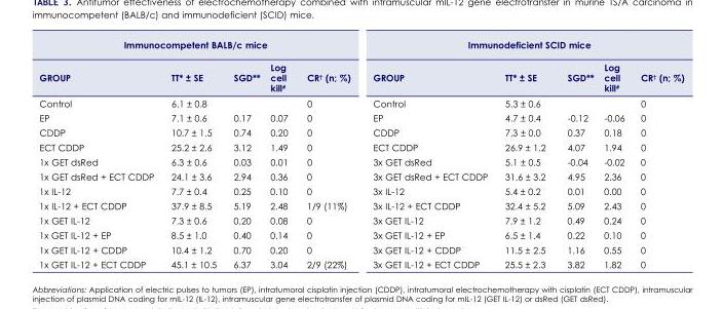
<table><thead><tr><td colspan="5">Immunocompetent BALB/c mice</td><td colspan="5">Immunodeficient SCID mice</td></tr><tr><td>Group</td><td>TT* ± SE</td><td>SGD**</td><td>Log cell kill<sup>#</sup></td><td>Cr<sup>†</sup> (n; %)</td><td>Group</td><td>TT* ± SE</td><td>SGD**</td><td>Log cell kill#</td><td>Cr† (n; %)</td></tr></thead><tbody><tr><td>Control</td><td>6.1 ± 0.8</td><td></td><td></td><td>0</td><td>Control</td><td>5.3 ± 0.6</td><td></td><td></td><td>0</td></tr><tr><td>EP</td><td>7.1 ± 0.6</td><td>0.17</td><td>0.07</td><td>0</td><td>EP</td><td>4.7 ± 0.4</td><td>-0.12</td><td>-0.06</td><td>0</td></tr><tr><td>CDDP</td><td>10.7 ± 1.5</td><td>0.74</td><td>0.20</td><td>0</td><td>CDDP</td><td>7.3 ± 0.0</td><td>0.37</td><td>0.18</td><td>0</td></tr><tr><td>ECT CDDP</td><td>25.2 ± 2.6</td><td>3.12</td><td>1.49</td><td>0</td><td>ECT CDDP</td><td>26.9 ± 1.2</td><td>4.07</td><td>1.94</td><td>0</td></tr><tr><td>1x GET dsRed</td><td>6.3 ± 0.6</td><td>0.03</td><td>0.01</td><td>0</td><td>3x GET dsRed</td><td>5.1 ± 0.5</td><td>-0.04</td><td>-0.02</td><td>0</td></tr><tr><td>1x GET dsRed + ECT CDDP</td><td>24.1 ± 3.6</td><td>2.94</td><td>0.36</td><td>0</td><td>3x GET dsRed + ECT CDDP</td><td>31.6 ± 3.2</td><td>4.95</td><td>2.36</td><td>0</td></tr><tr><td>1x IL-12</td><td>7.7 ± 0.4</td><td>0.25</td><td>0.10</td><td>0</td><td>3x IL-12</td><td>5.4 ± 0.2</td><td>0.01</td><td>0.00</td><td>0</td></tr><tr><td>1x IL-12 + ECT CDDP</td><td>37.9 ± 8.5</td><td>5.19</td><td>2.48</td><td>1/9 (11%)</td><td>3x IL-12 + ECT CDDP</td><td>32.4 ± 5.2</td><td>5.09</td><td>2.43</td><td>0</td></tr><tr><td>1x GET IL-12</td><td>7.3 ± 0.6</td><td>0.20</td><td>0.08</td><td>0</td><td>3x GET IL-12</td><td>7.9 ± 1.2</td><td>0.49</td><td>0.24</td><td>0</td></tr><tr><td>1x GET IL-12 + EP</td><td>8.5 ± 1.0</td><td>0.40</td><td>0.14</td><td>0</td><td>3x GET IL-12 + EP</td><td>6.5 ± 1.4</td><td>0.22</td><td>0.10</td><td>0</td></tr><tr><td>1x GET IL-12 + CDDP</td><td>10.4 ± 1.2</td><td>0.70</td><td>0.20</td><td>0</td><td>3x GET IL-12 + CDDP</td><td>11.5 ± 2.5</td><td>1.16</td><td>0.55</td><td>0</td></tr><tr><td>1x GET IL-12 + ECT CDDP</td><td>45.1 ± 10.5</td><td>6.37</td><td>3.04</td><td>2/9 (22%)</td><td>3x GET IL-12 + ECT CDDP</td><td>25.5 ± 2.3</td><td>3.82</td><td>1.82</td><td>0</td></tr></tbody></table>